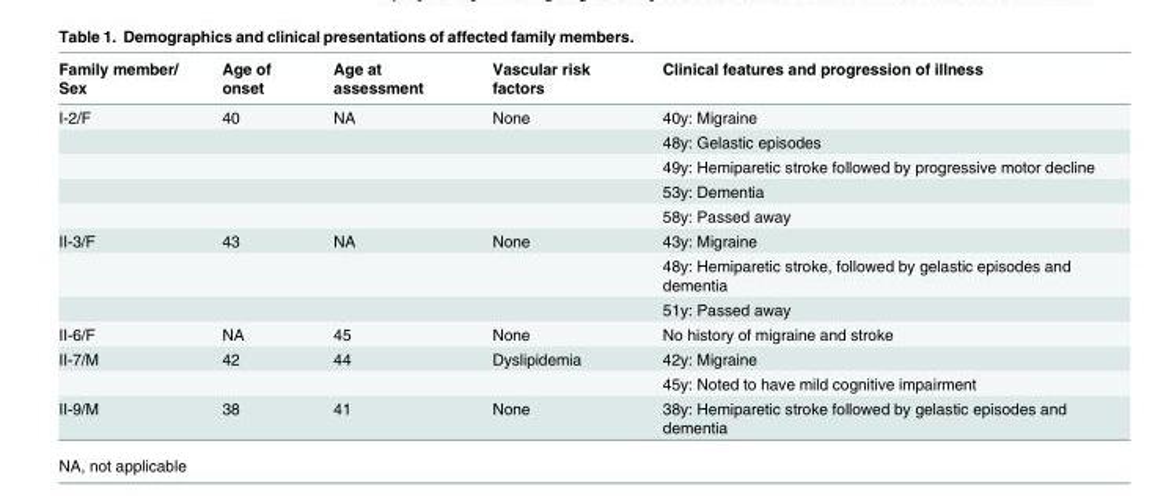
<table><thead><tr><td>Family member/ Sex</td><td>Age of onset</td><td>Age at assessment</td><td>Vascular risk factors</td><td>Clinical features and progression of illness</td></tr></thead><tbody><tr><td rowspan="5">I-2/F</td><td>40</td><td>NA</td><td>None</td><td>40y: Migraine</td></tr><tr><td></td><td></td><td></td><td>48y: Gelastic episodes</td></tr><tr><td></td><td></td><td></td><td>49y: Hemiparetic stroke followed by progressive motor decline</td></tr><tr><td></td><td></td><td></td><td>53y: Dementia</td></tr><tr><td></td><td></td><td></td><td>58y: Passed away</td></tr><tr><td rowspan="3">II-3/F</td><td>43</td><td>NA</td><td>None</td><td>43y: Migraine</td></tr><tr><td></td><td></td><td></td><td>48y: Hemiparetic stroke, followed by gelastic episodes and dementia</td></tr><tr><td></td><td></td><td></td><td>51y: Passed away</td></tr><tr><td>II-6/F</td><td>NA</td><td>45</td><td>None</td><td>No history of migraine and stroke</td></tr><tr><td rowspan="2">II-7/M</td><td>42</td><td>44</td><td>Dyslipidemia</td><td>42y: Migraine</td></tr><tr><td></td><td></td><td></td><td>45y: Noted to have mild cognitive impairment</td></tr><tr><td>II-9/M</td><td>38</td><td>41</td><td>None</td><td>38y: Hemiparetic stroke followed by gelastic episodes and dementia</td></tr></tbody></table>